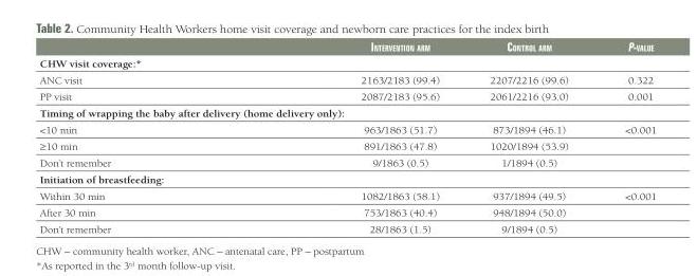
<table><thead><tr><td></td><td>InterventIon arm</td><td>Control arm</td><td>P-value</td></tr></thead><tbody><tr><td colspan="4">CHW visit coverage:*</td></tr><tr><td>ANC visit</td><td>2163/2183 (99.4)</td><td>2207/2216 (99.6)</td><td>0.322</td></tr><tr><td>PP visit</td><td>2087/2183 (95.6)</td><td>2061/2216 (93.0)</td><td>0.001</td></tr><tr><td colspan="4">Timing of wrapping the baby after delivery (home delivery only):</td></tr><tr><td>&lt;10 min</td><td>963/1863 (51.7)</td><td>873/1894 (46.1)</td><td>&lt;0.001</td></tr><tr><td>≥10 min</td><td>891/1863 (47.8)</td><td>1020/1894 (53.9)</td><td></td></tr><tr><td>Don’t remember</td><td>9/1863 (0.5)</td><td>1/1894 (0.5)</td><td></td></tr><tr><td colspan="4">Initiation of breastfeeding:</td></tr><tr><td>Within 30 min</td><td>1082/1863 (58.1)</td><td>937/1894 (49.5)</td><td>&lt;0.001</td></tr><tr><td>After 30 min</td><td>753/1863 (40.4)</td><td>948/1894 (50.0)</td><td></td></tr><tr><td>Don’t remember</td><td>28/1863 (1.5)</td><td>9/1894 (0.5)</td><td></td></tr></tbody></table>